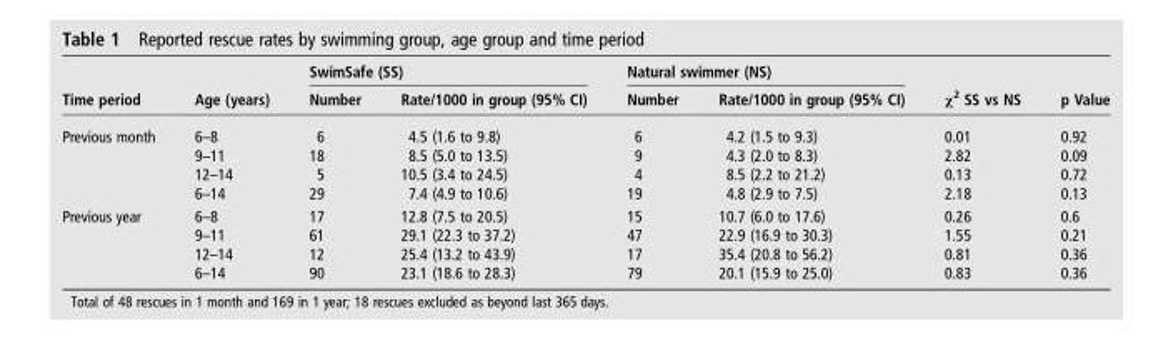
<table><thead><tr><td rowspan="2">Time period</td><td rowspan="2">Age (years)</td><td colspan="2">SwimSafe (SS)</td><td colspan="2">Natural swimmer (NS)</td><td rowspan="2">χ<sup>2</sup> SS vs NS</td><td rowspan="2">p Value</td></tr><tr><td>Number</td><td>Rate/1000 in group (95% CI)</td><td>Number</td><td>Rate/1000 in group (95% CI)</td></tr></thead><tbody><tr><td rowspan="4">Previous month</td><td>6–8</td><td>6</td><td>4.5 (1.6 to 9.8)</td><td>6</td><td>4.2 (1.5 to 9.3)</td><td>0.01</td><td>0.92</td></tr><tr><td>9–11</td><td>18</td><td>8.5 (5.0 to 13.5)</td><td>9</td><td>4.3 (2.0 to 8.3)</td><td>2.82</td><td>0.09</td></tr><tr><td>12–14</td><td>5</td><td>10.5 (3.4 to 24.5)</td><td>4</td><td>8.5 (2.2 to 21.2)</td><td>0.13</td><td>0.72</td></tr><tr><td>6–14</td><td>29</td><td>7.4 (4.9 to 10.6)</td><td>19</td><td>4.8 (2.9 to 7.5)</td><td>2.18</td><td>0.13</td></tr><tr><td rowspan="4">Previous year</td><td>6–8</td><td>17</td><td>12.8 (7.5 to 20.5)</td><td>15</td><td>10.7 (6.0 to 17.6)</td><td>0.26</td><td>0.6</td></tr><tr><td>9–11</td><td>61</td><td>29.1 (22.3 to 37.2)</td><td>47</td><td>22.9 (16.9 to 30.3)</td><td>1.55</td><td>0.21</td></tr><tr><td>12–14</td><td>12</td><td>25.4 (13.2 to 43.9)</td><td>17</td><td>35.4 (20.8 to 56.2)</td><td>0.81</td><td>0.36</td></tr><tr><td>6–14</td><td>90</td><td>23.1 (18.6 to 28.3)</td><td>79</td><td>20.1 (15.9 to 25.0)</td><td>0.83</td><td>0.36</td></tr></tbody></table>